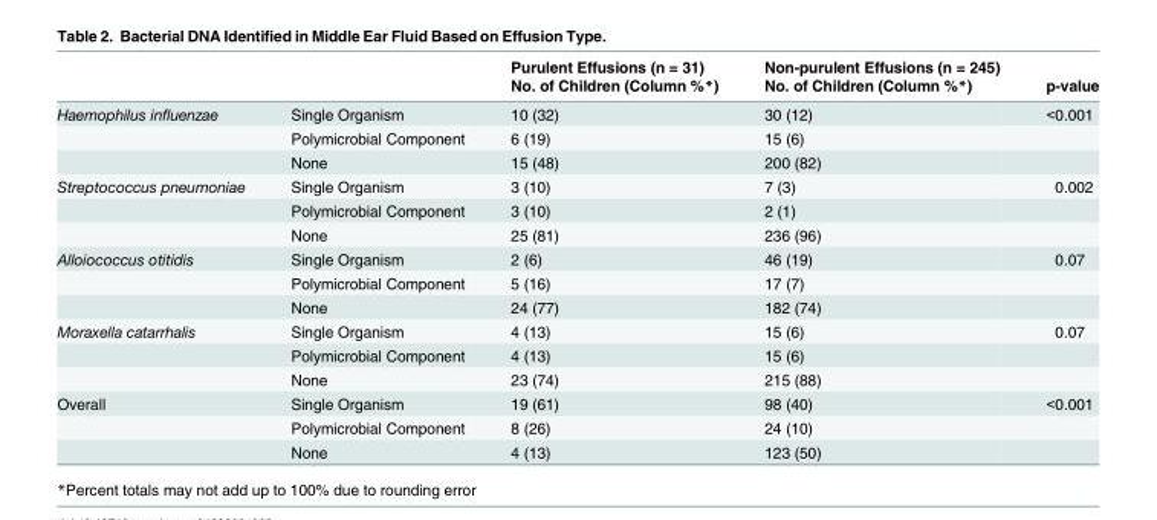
<table><thead><tr><td rowspan="2"></td><td rowspan="2"></td><td rowspan="2">Purulent Effusions (n = 31) No. of Children (Column %*)</td><td rowspan="2">Non-purulent Effusions (n = 245) No. of Children (Column %*)</td><td rowspan="2">p-value</td></tr><tr></tr></thead><tbody><tr><td rowspan="3">Haemophilus influenzae</td><td>Single Organism</td><td>10 (32)</td><td>30 (12)</td><td>&lt;0.001</td></tr><tr><td>Polymicrobial Component</td><td>6 (19)</td><td>15 (6)</td><td></td></tr><tr><td>None</td><td>15 (48)</td><td>200 (82)</td><td></td></tr><tr><td rowspan="3">Streptococcus pneumoniae</td><td>Single Organism</td><td>3 (10)</td><td>7 (3)</td><td>0.002</td></tr><tr><td>Polymicrobial Component</td><td>3 (10)</td><td>2 (1)</td><td></td></tr><tr><td>None</td><td>25 (81)</td><td>236 (96)</td><td></td></tr><tr><td rowspan="3">Alloiococcus otitidis</td><td>Single Organism</td><td>2 (6)</td><td>46 (19)</td><td>0.07</td></tr><tr><td>Polymicrobial Component</td><td>5 (16)</td><td>17 (7)</td><td></td></tr><tr><td>None</td><td>24 (77)</td><td>182 (74)</td><td></td></tr><tr><td rowspan="3">Moraxella catarrhalis</td><td>Single Organism</td><td>4 (13)</td><td>15 (6)</td><td>0.07</td></tr><tr><td>Polymicrobial Component</td><td>4 (13)</td><td>15 (6)</td><td></td></tr><tr><td>None</td><td>23 (74)</td><td>215 (88)</td><td></td></tr><tr><td rowspan="3">Overall</td><td>Single Organism</td><td>19 (61)</td><td>98 (40)</td><td>&lt;0.001</td></tr><tr><td>Polymicrobial Component</td><td>8 (26)</td><td>24 (10)</td><td></td></tr><tr><td>None</td><td>4 (13)</td><td>123 (50)</td><td></td></tr></tbody></table>